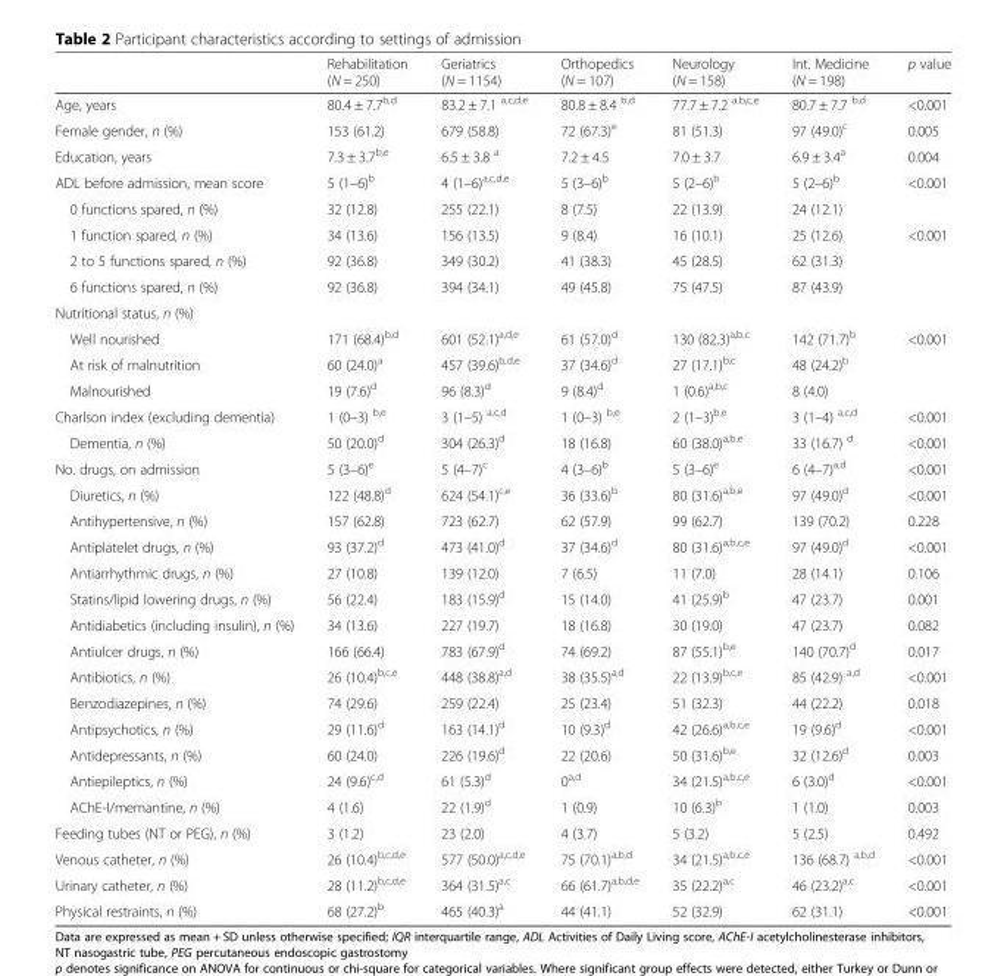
<table><thead><tr><td></td><td>Rehabilitation (N = 250)</td><td>Geriatrics (N = 1154)</td><td>Orthopedics (N = 107)</td><td>Neurology (N = 158)</td><td>Int. Medicine (N = 198)</td><td>p value</td></tr></thead><tbody><tr><td>Age, years</td><td>80.4 ± 7.7<sup>b,d</sup></td><td>83.2 ± 7.1 <sup>a,c,d,e</sup></td><td>80.8 ± 8.4 <sup>b,d</sup></td><td>77.7 ± 7.2 <sup>a,b,c,e</sup></td><td>80.7 ± 7.7 <sup>b,d</sup></td><td>&lt;0.001</td></tr><tr><td>Female gender, n (%)</td><td>153 (61.2)</td><td>679 (58.8)</td><td>72 (67.3)<sup>e</sup></td><td>81 (51.3)</td><td>97 (49.0)<sup>c</sup></td><td>0.005</td></tr><tr><td>Education, years</td><td>7.3 ± 3.7<sup>b,e</sup></td><td>6.5 ± 3.8 <sup>a</sup></td><td>7.2 ± 4.5</td><td>7.0 ± 3.7</td><td>6.9 ± 3.4<sup>a</sup></td><td>0.004</td></tr><tr><td>ADL before admission, mean score</td><td>5 (1–6)<sup>b</sup></td><td>4 (1–6)<sup>a,c,d,e</sup></td><td>5 (3–6)<sup>b</sup></td><td>5 (2–6)<sup>b</sup></td><td>5 (2–6)<sup>b</sup></td><td>&lt;0.001</td></tr><tr><td>0 functions spared, n (%)</td><td>32 (12.8)</td><td>255 (22.1)</td><td>8 (7.5)</td><td>22 (13.9)</td><td>24 (12.1)</td><td></td></tr><tr><td>1 function spared, n (%)</td><td>34 (13.6)</td><td>156 (13.5)</td><td>9 (8.4)</td><td>16 (10.1)</td><td>25 (12.6)</td><td>&lt;0.001</td></tr><tr><td>2 to 5 functions spared, n (%)</td><td>92 (36.8)</td><td>349 (30.2)</td><td>41 (38.3)</td><td>45 (28.5)</td><td>62 (31.3)</td><td></td></tr><tr><td>6 functions spared, n (%)</td><td>92 (36.8)</td><td>394 (34.1)</td><td>49 (45.8)</td><td>75 (47.5)</td><td>87 (43.9)</td><td></td></tr><tr><td colspan="7">Nutritional status, n (%)</td></tr><tr><td>Well nourished</td><td>171 (68.4)<sup>b,d</sup></td><td>601 (52.1)<sup>a,d,e</sup></td><td>61 (57.0)<sup>d</sup></td><td>130 (82.3)<sup>a,b,c</sup></td><td>142 (71.7)<sup>b</sup></td><td rowspan="3">&lt;0.001</td></tr><tr><td>At risk of malnutrition</td><td>60 (24.0)<sup>a</sup></td><td>457 (39.6)<sup>b,d,e</sup></td><td>37 (34.6)<sup>d</sup></td><td>27 (17.1)<sup>b,c</sup></td><td>48 (24.2)<sup>b</sup></td></tr><tr><td>Malnourished</td><td>19 (7.6)<sup>d</sup></td><td>96 (8.3)<sup>d</sup></td><td>9 (8.4)<sup>d</sup></td><td>1 (0.6)<sup>a,b,c</sup></td><td>8 (4.0)</td></tr><tr><td>Charlson index (excluding dementia)</td><td>1 (0–3) <sup>b,e</sup></td><td>3 (1–5) <sup>a,c,d</sup></td><td>1 (0–3) <sup>b,e</sup></td><td>2 (1–3)<sup>b,e</sup></td><td>3 (1–4) <sup>a,c,d</sup></td><td>&lt;0.001</td></tr><tr><td>Dementia, n (%)</td><td>50 (20.0)<sup>d</sup></td><td>304 (26.3)<sup>d</sup></td><td>18 (16.8)</td><td>60 (38.0)<sup>a,b,e</sup></td><td>33 (16.7) <sup>d</sup></td><td>&lt;0.001</td></tr><tr><td>No. drugs, on admission</td><td>5 (3–6)<sup>e</sup></td><td>5 (4–7)<sup>c</sup></td><td>4 (3–6)<sup>b</sup></td><td>5 (3–6)<sup>e</sup></td><td>6 (4–7)<sup>a,d</sup></td><td>&lt;0.001</td></tr><tr><td>Diuretics, n (%)</td><td>122 (48.8)<sup>d</sup></td><td>624 (54.1)<sup>c,e</sup></td><td>36 (33.6)<sup>b</sup></td><td>80 (31.6)<sup>a,b,e</sup></td><td>97 (49.0)<sup>d</sup></td><td>&lt;0.001</td></tr><tr><td>Antihypertensive, n (%)</td><td>157 (62.8)</td><td>723 (62.7)</td><td>62 (57.9)</td><td>99 (62.7)</td><td>139 (70.2)</td><td>0.228</td></tr><tr><td>Antiplatelet drugs, n (%)</td><td>93 (37.2)<sup>d</sup></td><td>473 (41.0)<sup>d</sup></td><td>37 (34.6)<sup>d</sup></td><td>80 (31.6)<sup>a,b,c,e</sup></td><td>97 (49.0)<sup>d</sup></td><td>&lt;0.001</td></tr><tr><td>Antiarrhythmic drugs, n (%)</td><td>27 (10.8)</td><td>139 (12.0)</td><td>7 (6.5)</td><td>11 (7.0)</td><td>28 (14.1)</td><td>0.106</td></tr><tr><td>Statins/lipid lowering drugs, n (%)</td><td>56 (22.4)</td><td>183 (15.9)<sup>d</sup></td><td>15 (14.0)</td><td>41 (25.9)<sup>b</sup></td><td>47 (23.7)</td><td>0.001</td></tr><tr><td>Antidiabetics (including insulin), n (%)</td><td>34 (13.6)</td><td>227 (19.7)</td><td>18 (16.8)</td><td>30 (19.0)</td><td>47 (23.7)</td><td>0.082</td></tr><tr><td>Antiulcer drugs, n (%)</td><td>166 (66.4)</td><td>783 (67.9)<sup>d</sup></td><td>74 (69.2)</td><td>87 (55.1)<sup>b,e</sup></td><td>140 (70.7)<sup>d</sup></td><td>0.017</td></tr><tr><td>Antibiotics, n (%)</td><td>26 (10.4)<sup>b,c,e</sup></td><td>448 (38.8)<sup>a,d</sup></td><td>38 (35.5)<sup>a,d</sup></td><td>22 (13.9)<sup>b,c,e</sup></td><td>85 (42.9) <sup>a,d</sup></td><td>&lt;0.001</td></tr><tr><td>Benzodiazepines, n (%)</td><td>74 (29.6)</td><td>259 (22.4)</td><td>25 (23.4)</td><td>51 (32.3)</td><td>44 (22.2)</td><td>0.018</td></tr><tr><td>Antipsychotics, n (%)</td><td>29 (11.6)<sup>d</sup></td><td>163 (14.1)<sup>d</sup></td><td>10 (9.3)<sup>d</sup></td><td>42 (26.6)<sup>a,b,c,e</sup></td><td>19 (9.6)<sup>d</sup></td><td>&lt;0.001</td></tr><tr><td>Antidepressants, n (%)</td><td>60 (24.0)</td><td>226 (19.6)<sup>d</sup></td><td>22 (20.6)</td><td>50 (31.6)<sup>b,e</sup></td><td>32 (12.6)<sup>d</sup></td><td>0.003</td></tr><tr><td>Antiepileptics, n (%)</td><td>24 (9.6)<sup>c,d</sup></td><td>61 (5.3)<sup>d</sup></td><td>0<sup>a,d</sup></td><td>34 (21.5)<sup>a,b,c,e</sup></td><td>6 (3.0)<sup>d</sup></td><td>&lt;0.001</td></tr><tr><td>AChE-I/memantine, n (%)</td><td>4 (1.6)</td><td>22 (1.9)<sup>d</sup></td><td>1 (0.9)</td><td>10 (6.3)<sup>b</sup></td><td>1 (1.0)</td><td>0.003</td></tr><tr><td>Feeding tubes (NT or PEG), n (%)</td><td>3 (1.2)</td><td>23 (2.0)</td><td>4 (3.7)</td><td>5 (3.2)</td><td>5 (2.5)</td><td>0.492</td></tr><tr><td>Venous catheter, n (%)</td><td>26 (10.4)<sup>b,c,d,e</sup></td><td>577 (50.0)<sup>a,c,d,e</sup></td><td>75 (70.1)<sup>a,b,d</sup></td><td>34 (21.5)<sup>a,b,c,e</sup></td><td>136 (68.7) <sup>a,b,d</sup></td><td>&lt;0.001</td></tr><tr><td>Urinary catheter, n (%)</td><td>28 (11.2)<sup>b,c,d,e</sup></td><td>364 (31.5)<sup>a,c</sup></td><td>66 (61.7)<sup>a,b,d,e</sup></td><td>35 (22.2)<sup>a,c</sup></td><td>46 (23.2)<sup>a,c</sup></td><td>&lt;0.001</td></tr><tr><td>Physical restraints, n (%)</td><td>68 (27.2)<sup>b</sup></td><td>465 (40.3)<sup>a</sup></td><td>44 (41.1)</td><td>52 (32.9)</td><td>62 (31.1)</td><td>&lt;0.001</td></tr></tbody></table>